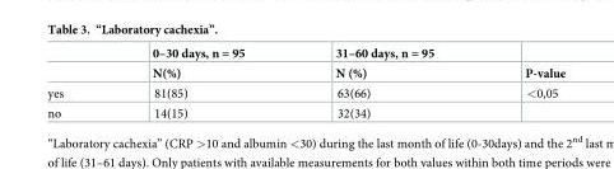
<table><thead><tr><td rowspan="2"></td><td rowspan="2">0–30 days, n = 95 N(%)</td><td rowspan="2">31–60 days, n = 95 N (%)</td><td rowspan="2">P-value</td></tr><tr></tr></thead><tbody><tr><td>yes</td><td>81(85)</td><td>63(66)</td><td>&lt;0,05</td></tr><tr><td>no</td><td>14(15)</td><td>32(34)</td><td></td></tr></tbody></table>